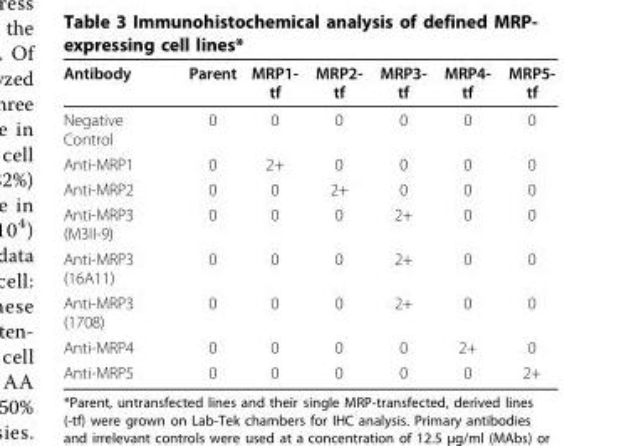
<table><thead><tr><td>Antibody</td><td>Parent</td><td>MRP1- tf</td><td>MRP2- tf</td><td>MRP3- tf</td><td>MRP4- tf</td><td>MRP5- tf</td></tr></thead><tbody><tr><td>Negative Control</td><td>0</td><td>0</td><td>0</td><td>0</td><td>0</td><td>0</td></tr><tr><td>Anti-MRP1</td><td>0</td><td>2+</td><td>0</td><td>0</td><td>0</td><td>0</td></tr><tr><td>Anti-MRP2</td><td>0</td><td>0</td><td>2+</td><td>0</td><td>0</td><td>0</td></tr><tr><td>Anti-MRP3 (M3II-9)</td><td>0</td><td>0</td><td>0</td><td>2+</td><td>0</td><td>0</td></tr><tr><td>Anti-MRP3 (16A11)</td><td>0</td><td>0</td><td>0</td><td>2+</td><td>0</td><td>0</td></tr><tr><td>Anti-MRP3 (1708)</td><td>0</td><td>0</td><td>0</td><td>2+</td><td>0</td><td>0</td></tr><tr><td>Anti-MRP4</td><td>0</td><td>0</td><td>0</td><td>0</td><td>2+</td><td>0</td></tr><tr><td>Anti-MRP5</td><td>0</td><td>0</td><td>0</td><td>0</td><td>0</td><td>2+</td></tr></tbody></table>